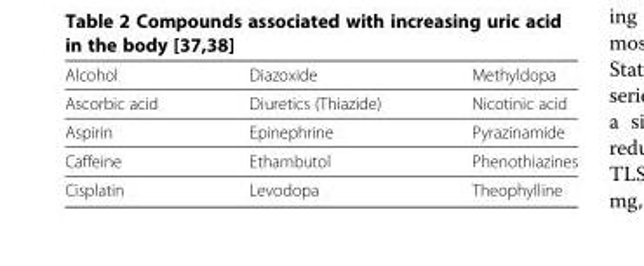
<table><tbody><tr><td>Alcohol</td><td>Diazoxide</td><td>Methyldopa</td></tr><tr><td>Ascorbic acid</td><td>Diuretics (Thiazide)</td><td>Nicotinic acid</td></tr><tr><td>Aspirin</td><td>Epinephrine</td><td>Pyrazinamide</td></tr><tr><td>Caffeine</td><td>Ethambutol</td><td>Phenothiazines</td></tr><tr><td>Cisplatin</td><td>Levodopa</td><td>Theophylline</td></tr></tbody></table>